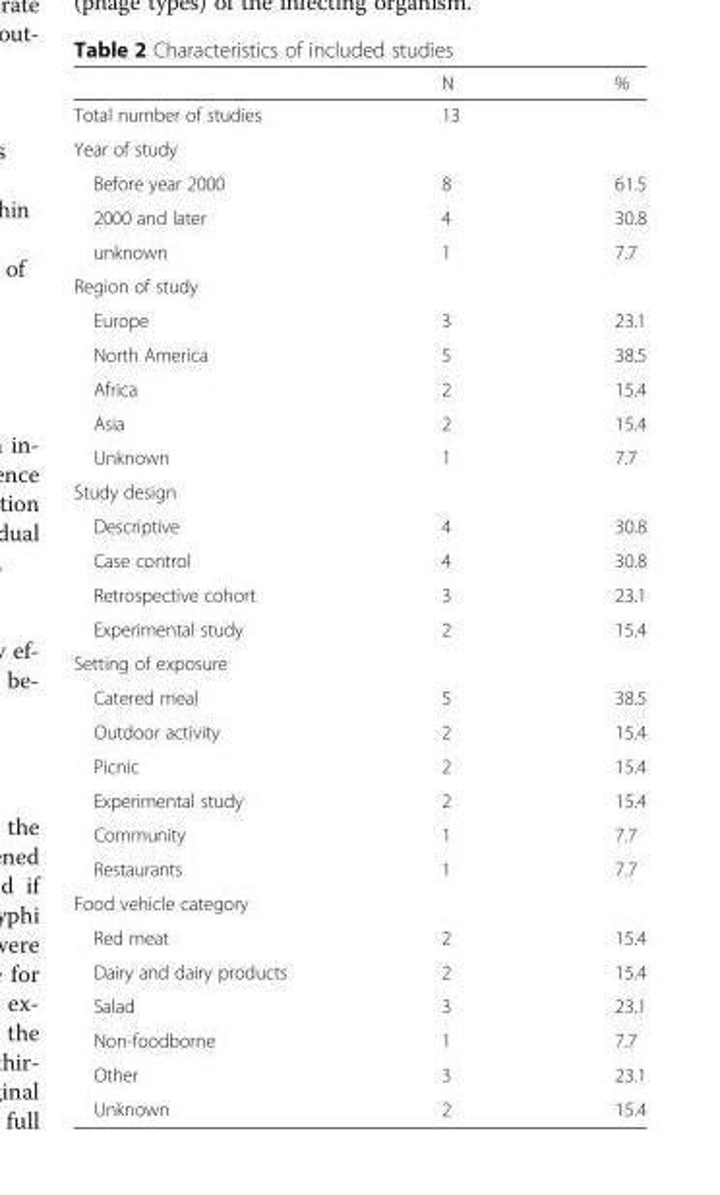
<table><thead><tr><td></td><td>N</td><td>%</td></tr></thead><tbody><tr><td>Total number of studies</td><td>13</td><td></td></tr><tr><td colspan="3">Year of study</td></tr><tr><td>Before year 2000</td><td>8</td><td>61.5</td></tr><tr><td>2000 and later</td><td>4</td><td>30.8</td></tr><tr><td>unknown</td><td>1</td><td>7.7</td></tr><tr><td colspan="3">Region of study</td></tr><tr><td>Europe</td><td>3</td><td>23.1</td></tr><tr><td>North America</td><td>5</td><td>38.5</td></tr><tr><td>Africa</td><td>2</td><td>15.4</td></tr><tr><td>Asia</td><td>2</td><td>15.4</td></tr><tr><td>Unknown</td><td>1</td><td>7.7</td></tr><tr><td colspan="3">Study design</td></tr><tr><td>Descriptive</td><td>4</td><td>30.8</td></tr><tr><td>Case control</td><td>4</td><td>30.8</td></tr><tr><td>Retrospective cohort</td><td>3</td><td>23.1</td></tr><tr><td>Experimental study</td><td>2</td><td>15.4</td></tr><tr><td colspan="3">Setting of exposure</td></tr><tr><td>Catered meal</td><td>5</td><td>38.5</td></tr><tr><td>Outdoor activity</td><td>2</td><td>15.4</td></tr><tr><td>Picnic</td><td>2</td><td>15.4</td></tr><tr><td>Experimental study</td><td>2</td><td>15.4</td></tr><tr><td>Community</td><td>1</td><td>7.7</td></tr><tr><td>Restaurants</td><td>1</td><td>7.7</td></tr><tr><td colspan="3">Food vehicle category</td></tr><tr><td>Red meat</td><td>2</td><td>15.4</td></tr><tr><td>Dairy and dairy products</td><td>2</td><td>15.4</td></tr><tr><td>Salad</td><td>3</td><td>23.1</td></tr><tr><td>Non-foodborne</td><td>1</td><td>7.7</td></tr><tr><td>Other</td><td>3</td><td>23.1</td></tr><tr><td>Unknown</td><td>2</td><td>15.4</td></tr></tbody></table>